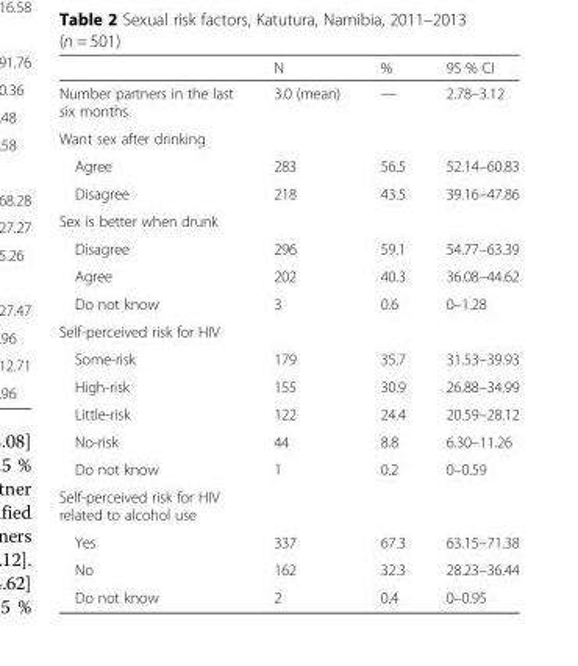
<table><thead><tr><td></td><td>N</td><td>%</td><td>95 % CI</td></tr></thead><tbody><tr><td>Number partners in the last six months</td><td>3.0 (mean)</td><td>—</td><td>2.78–3.12</td></tr><tr><td colspan="4">Want sex after drinking</td></tr><tr><td>Agree</td><td>283</td><td>56.5</td><td>52.14–60.83</td></tr><tr><td>Disagree</td><td>218</td><td>43.5</td><td>39.16–47.86</td></tr><tr><td colspan="4">Sex is better when drunk</td></tr><tr><td>Disagree</td><td>296</td><td>59.1</td><td>54.77–63.39</td></tr><tr><td>Agree</td><td>202</td><td>40.3</td><td>36.08–44.62</td></tr><tr><td>Do not know</td><td>3</td><td>0.6</td><td>0–1.28</td></tr><tr><td colspan="4">Self-perceived risk for HIV</td></tr><tr><td>Some-risk</td><td>179</td><td>35.7</td><td>31.53–39.93</td></tr><tr><td>High-risk</td><td>155</td><td>30.9</td><td>26.88–34.99</td></tr><tr><td>Little-risk</td><td>122</td><td>24.4</td><td>20.59–28.12</td></tr><tr><td>No-risk</td><td>44</td><td>8.8</td><td>6.30–11.26</td></tr><tr><td>Do not know</td><td>1</td><td>0.2</td><td>0–0.59</td></tr><tr><td colspan="4">Self-perceived risk for HIV related to alcohol use</td></tr><tr><td>Yes</td><td>337</td><td>67.3</td><td>63.15–71.38</td></tr><tr><td>No</td><td>162</td><td>32.3</td><td>28.23–36.44</td></tr><tr><td>Do not know</td><td>2</td><td>0.4</td><td>0–0.95</td></tr></tbody></table>